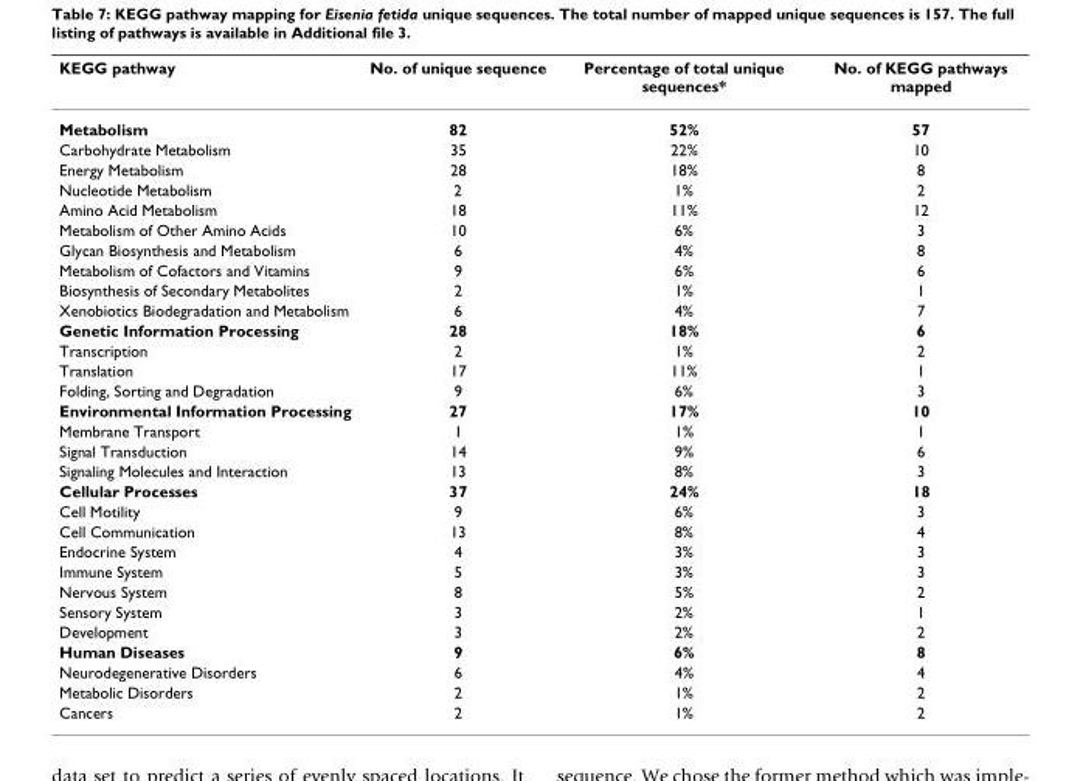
<table><thead><tr><td>KEGG pathway</td><td>No. of unique sequence</td><td>Percentage of total unique sequences*</td><td>No. of KEGG pathways mapped</td></tr></thead><tbody><tr><td>Metabolism</td><td>82</td><td>52%</td><td>57</td></tr><tr><td>Carbohydrate Metabolism</td><td>35</td><td>22%</td><td>10</td></tr><tr><td>Energy Metabolism</td><td>28</td><td>18%</td><td>8</td></tr><tr><td>Nucleotide Metabolism</td><td>2</td><td>1%</td><td>2</td></tr><tr><td>Amino Acid Metabolism</td><td>18</td><td>11%</td><td>12</td></tr><tr><td>Metabolism of Other Amino Acids</td><td>10</td><td>6%</td><td>3</td></tr><tr><td>Glycan Biosynthesis and Metabolism</td><td>6</td><td>4%</td><td>8</td></tr><tr><td>Metabolism of Cofactors and Vitamins</td><td>9</td><td>6%</td><td>6</td></tr><tr><td>Biosynthesis of Secondary Metabolites</td><td>2</td><td>1%</td><td>1</td></tr><tr><td>Xenobiotics Biodegradation and Metabolism</td><td>6</td><td>4%</td><td>7</td></tr><tr><td>Genetic Information Processing</td><td>28</td><td>18%</td><td>6</td></tr><tr><td>Transcription</td><td>2</td><td>1%</td><td>2</td></tr><tr><td>Translation</td><td>17</td><td>11%</td><td>1</td></tr><tr><td>Folding, Sorting and Degradation</td><td>9</td><td>6%</td><td>3</td></tr><tr><td>Environmental Information Processing</td><td>27</td><td>17%</td><td>10</td></tr><tr><td>Membrane Transport</td><td>1</td><td>1%</td><td>1</td></tr><tr><td>Signal Transduction</td><td>14</td><td>9%</td><td>6</td></tr><tr><td>Signaling Molecules and Interaction</td><td>13</td><td>8%</td><td>3</td></tr><tr><td>Cellular Processes</td><td>37</td><td>24%</td><td>18</td></tr><tr><td>Cell Motility</td><td>9</td><td>6%</td><td>3</td></tr><tr><td>Cell Communication</td><td>13</td><td>8%</td><td>4</td></tr><tr><td>Endocrine System</td><td>4</td><td>3%</td><td>3</td></tr><tr><td>Immune System</td><td>5</td><td>3%</td><td>3</td></tr><tr><td>Nervous System</td><td>8</td><td>5%</td><td>2</td></tr><tr><td>Sensory System</td><td>3</td><td>2%</td><td>1</td></tr><tr><td>Development</td><td>3</td><td>2%</td><td>2</td></tr><tr><td>Human Diseases</td><td>9</td><td>6%</td><td>8</td></tr><tr><td>Neurodegenerative Disorders</td><td>6</td><td>4%</td><td>4</td></tr><tr><td>Metabolic Disorders</td><td>2</td><td>1%</td><td>2</td></tr><tr><td>Cancers</td><td>2</td><td>1%</td><td>2</td></tr></tbody></table>